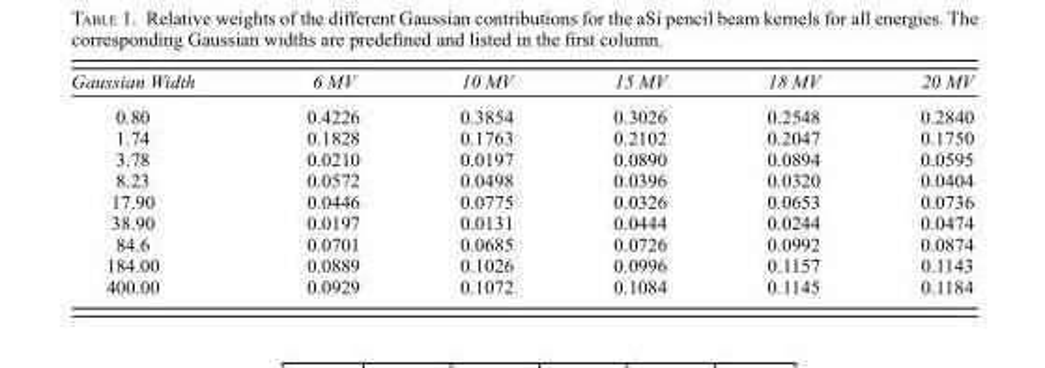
<table><thead><tr><td>Gaussian Width</td><td>6 MV</td><td>10 MV</td><td>15 MV</td><td>18 MV</td><td>20 MV</td></tr></thead><tbody><tr><td>0.80</td><td>0.4226</td><td>0.3854</td><td>0.3026</td><td>0.2548</td><td>0.2840</td></tr><tr><td>1.74</td><td>0.1828</td><td>0.1763</td><td>0.2102</td><td>0.2047</td><td>0.1750</td></tr><tr><td>3.78</td><td>0.0210</td><td>0.0197</td><td>0.0890</td><td>0.0894</td><td>0.0595</td></tr><tr><td>8.23</td><td>0.0572</td><td>0.0498</td><td>0.0396</td><td>0.0320</td><td>0.0404</td></tr><tr><td>17.90</td><td>0.0446</td><td>0.0775</td><td>0.0326</td><td>0.0653</td><td>0.0736</td></tr><tr><td>38.90</td><td>0.0197</td><td>0.0131</td><td>0.0444</td><td>0.0244</td><td>0.0474</td></tr><tr><td>84.6</td><td>0.0701</td><td>0.0685</td><td>0.0726</td><td>0.0992</td><td>0.0874</td></tr><tr><td>184.00</td><td>0.0889</td><td>0.1026</td><td>0.0996</td><td>0.1157</td><td>0.1143</td></tr><tr><td>400.00</td><td>0.0929</td><td>0.1072</td><td>0.1084</td><td>0.1145</td><td>0.1184</td></tr></tbody></table>